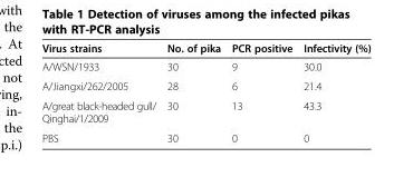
<table><thead><tr><td>Virus strains</td><td>No. of pika</td><td>PCR positive</td><td>Infectivity (%)</td></tr></thead><tbody><tr><td>A/WSN/1933</td><td>30</td><td>9</td><td>30.0</td></tr><tr><td>A/Jiangxi/262/2005</td><td>28</td><td>6</td><td>21.4</td></tr><tr><td>A/great black-headed gull/ Qinghai/1/2009</td><td>30</td><td>13</td><td>43.3</td></tr><tr><td>PBS</td><td>30</td><td>0</td><td>0</td></tr></tbody></table>